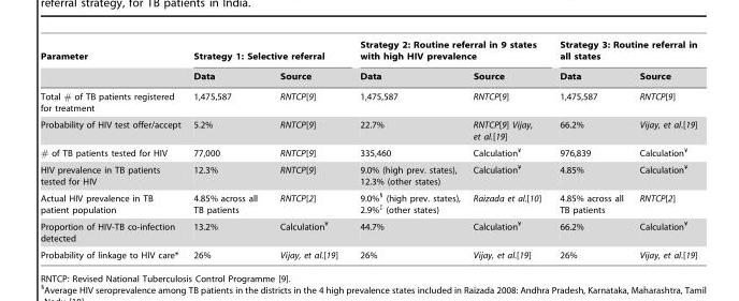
<table><thead><tr><td rowspan="2">Parameter</td><td colspan="2">Strategy 1: Selective referral</td><td colspan="2">Strategy 2: Routine referral in 9 states with high HIV prevalence</td><td colspan="2">Strategy 3: Routine referral in all states</td></tr><tr><td>Data</td><td>Source</td><td>Data</td><td>Source</td><td>Data</td><td>Source</td></tr></thead><tbody><tr><td>Total # of TB patients registered for treatment</td><td>1,475,587</td><td>RNTCP[9]</td><td>1,475,587</td><td>RNTCP[9]</td><td>1,475,587</td><td>RNTCP[9]</td></tr><tr><td>Probability of HIV test offer/accept</td><td>5.2%</td><td>RNTCP[9]</td><td>22.7%</td><td>RNTCP[9] Vijay, et al.[19]</td><td>66.2%</td><td>Vijay, et al.[19]</td></tr><tr><td># of TB patients tested for HIV</td><td>77,000</td><td>RNTCP[9]</td><td>335,460</td><td>Calculation¥</td><td>976,839</td><td>Calculation¥</td></tr><tr><td>HIV prevalence in TB patients tested for HIV</td><td>12.3%</td><td>RNTCP[9]</td><td>9.0% (high prev. states), 12.3% (other states)</td><td>Calculation¥</td><td>4.85%</td><td>Calculation¥</td></tr><tr><td>Actual HIV prevalence in TB patient population</td><td>4.85% across all TB patients</td><td>RNTCP[2]</td><td>9.0%§ (high prev. states), 2.9%‡ (other states)</td><td>Raizada et al.[10]</td><td>4.85% across all TB patients</td><td>RNTCP[2]</td></tr><tr><td>Proportion of HIV-TB co-infection detected</td><td>13.2%</td><td>Calculation¥</td><td>44.7%</td><td>Calculation¥</td><td>66.2%</td><td>Calculation¥</td></tr><tr><td>Probability of linkage to HIV care*</td><td>26%</td><td>Vijay, et al.[19]</td><td>26%</td><td>Vijay, et al.[19]</td><td>26%</td><td>Vijay, et al.[19]</td></tr></tbody></table>